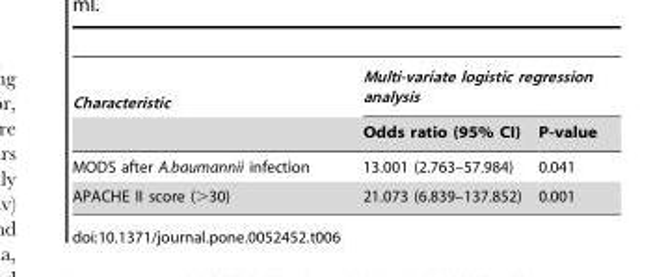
<table><thead><tr><td rowspan="2">Characteristic</td><td colspan="2">Multi-variate logistic regression analysis</td></tr><tr><td>Odds ratio (95% CI)</td><td>P-value</td></tr></thead><tbody><tr><td>MODS after A.baumannii infection</td><td>13.001 (2.763–57.984)</td><td>0.041</td></tr><tr><td>APACHE II score (&gt;30)</td><td>21.073 (6.839–137.852)</td><td>0.001</td></tr></tbody></table>